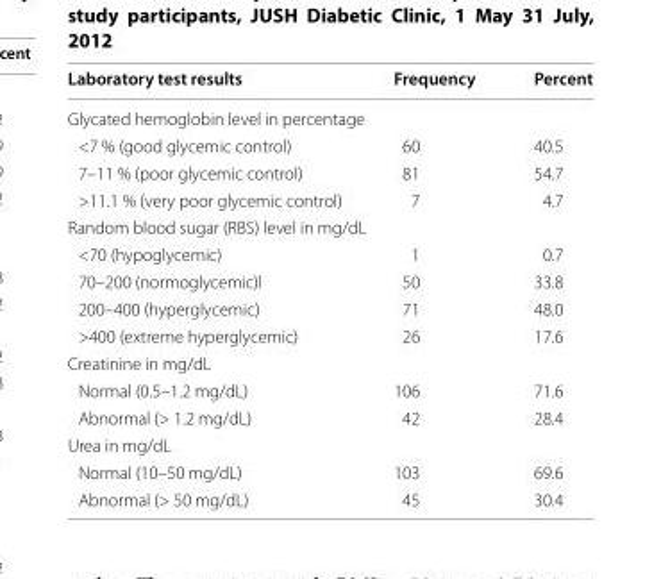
<table><thead><tr><td>Laboratory test results</td><td>Frequency</td><td>Percent</td></tr></thead><tbody><tr><td colspan="3">Glycated hemoglobin level in percentage</td></tr><tr><td>&lt;7 % (good glycemic control)</td><td>60</td><td>40.5</td></tr><tr><td>7–11 % (poor glycemic control)</td><td>81</td><td>54.7</td></tr><tr><td>&gt;11.1 % (very poor glycemic control)</td><td>7</td><td>4.7</td></tr><tr><td colspan="3">Random blood sugar (RBS) level in mg/dL</td></tr><tr><td>&lt;70 (hypoglycemic)</td><td>1</td><td>0.7</td></tr><tr><td>70–200 (normoglycemic)l</td><td>50</td><td>33.8</td></tr><tr><td>200–400 (hyperglycemic)</td><td>71</td><td>48.0</td></tr><tr><td>&gt;400 (extreme hyperglycemic)</td><td>26</td><td>17.6</td></tr><tr><td colspan="3">Creatinine in mg/dL</td></tr><tr><td>Normal (0.5–1.2 mg/dL)</td><td>106</td><td>71.6</td></tr><tr><td>Abnormal (&gt; 1.2 mg/dL)</td><td>42</td><td>28.4</td></tr><tr><td colspan="3">Urea in mg/dL</td></tr><tr><td>Normal (10–50 mg/dL)</td><td>103</td><td>69.6</td></tr><tr><td>Abnormal (&gt; 50 mg/dL)</td><td>45</td><td>30.4</td></tr></tbody></table>